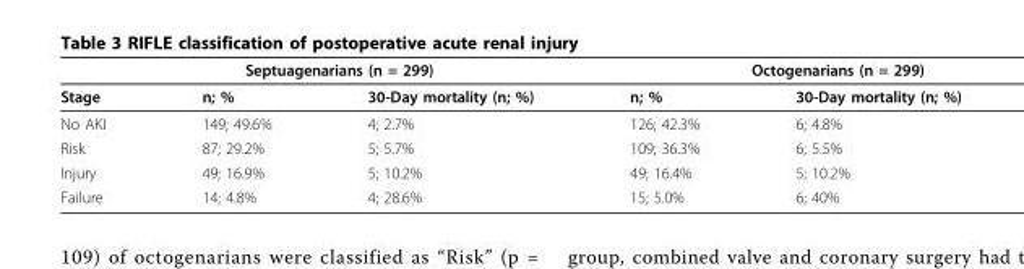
<table><thead><tr><td colspan="3">Septuagenarians (n = 299)</td><td colspan="2">Octogenarians (n = 299)</td></tr><tr><td>Stage</td><td>n; %</td><td>30-Day mortality (n; %)</td><td>n; %</td><td>30-Day mortality (n; %)</td></tr></thead><tbody><tr><td>No AKI</td><td>149; 49.6%</td><td>4; 2.7%</td><td>126; 42.3%</td><td>6; 4.8%</td></tr><tr><td>Risk</td><td>87; 29.2%</td><td>5; 5.7%</td><td>109; 36.3%</td><td>6; 5.5%</td></tr><tr><td>Injury</td><td>49; 16.9%</td><td>5; 10.2%</td><td>49; 16.4%</td><td>5; 10.2%</td></tr><tr><td>Failure</td><td>14; 4.8%</td><td>4; 28.6%</td><td>15; 5.0%</td><td>6; 40%</td></tr></tbody></table>